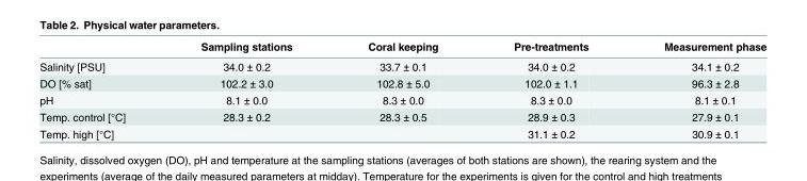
<table><thead><tr><td></td><td>Sampling stations</td><td>Coral keeping</td><td>Pre-treatments</td><td>Measurement phase</td></tr></thead><tbody><tr><td>Salinity [PSU]</td><td>34.0 ± 0.2</td><td>33.7 ± 0.1</td><td>34.0 ± 0.2</td><td>34.1 ± 0.2</td></tr><tr><td>DO [% sat]</td><td>102.2 ± 3.0</td><td>102.8 ± 5.0</td><td>102.0 ± 1.1</td><td>96.3 ± 2.8</td></tr><tr><td>pH</td><td>8.1 ± 0.0</td><td>8.3 ± 0.0</td><td>8.3 ± 0.0</td><td>8.1 ± 0.1</td></tr><tr><td>Temp. control [°C]</td><td>28.3 ± 0.2</td><td>28.3 ± 0.5</td><td>28.9 ± 0.3</td><td>27.9 ± 0.1</td></tr><tr><td>Temp. high [°C]</td><td></td><td></td><td>31.1 ± 0.2</td><td>30.9 ± 0.1</td></tr></tbody></table>